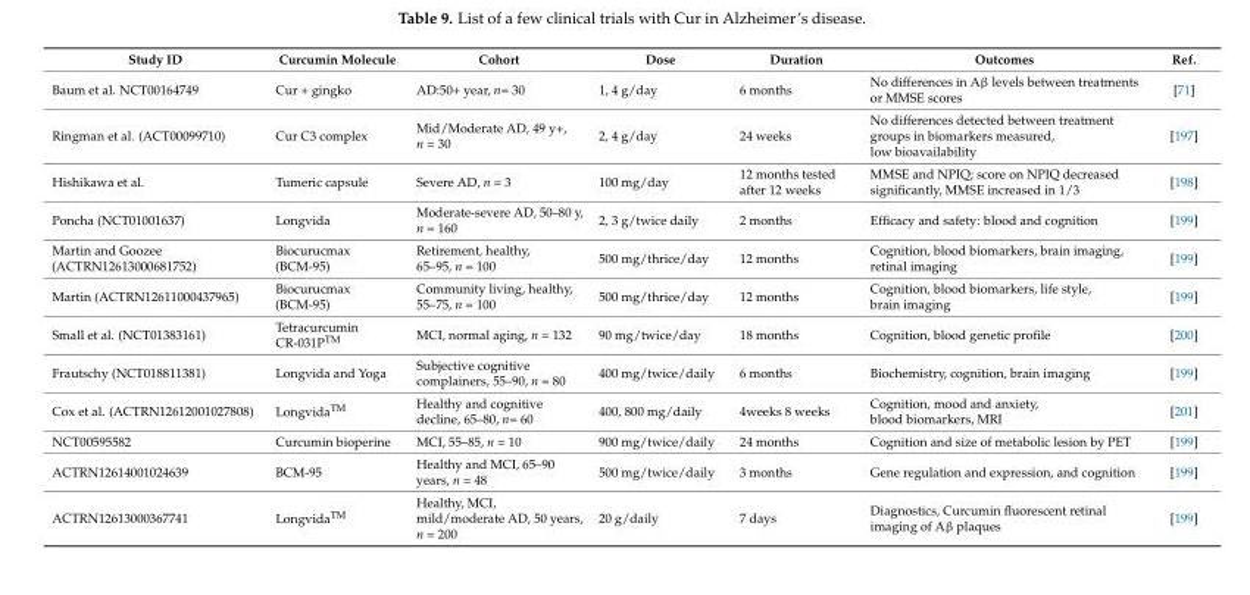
<table><thead><tr><td>Study ID</td><td>Curcumin Molecule</td><td>Cohort</td><td>Dose</td><td>Duration</td><td>Outcomes</td><td>Ref.</td></tr></thead><tbody><tr><td>Baum et al. NCT00164749</td><td>Cur + gingko</td><td>AD:50+ year, n= 30</td><td>1, 4 g/day</td><td>6 months</td><td>No differences in Aβ levels between treatments or MMSE scores</td><td>[71]</td></tr><tr><td>Ringman et al. (ACT00099710)</td><td>Cur C3 complex</td><td>Mid/Moderate AD, 49 y+, n = 30</td><td>2, 4 g/day</td><td>24 weeks</td><td>No differences detected between treatment groups in biomarkers measured, low bioavailability</td><td>[197]</td></tr><tr><td>Hishikawa et al.</td><td>Tumeric capsule</td><td>Severe AD, n = 3</td><td>100 mg/day</td><td>12 months tested after 12 weeks</td><td>MMSE and NPIQ; score on NPIQ decreased significantly, MMSE increased in 1/3</td><td>[198]</td></tr><tr><td>Poncha (NCT01001637)</td><td>Longvida</td><td>Moderate-severe AD, 50–80 y, n = 160</td><td>2, 3 g/twice daily</td><td>2 months</td><td>Efficacy and safety: blood and cognition</td><td>[199]</td></tr><tr><td>Martin and Goozee (ACTRN12613000681752)</td><td>Biocurucmax (BCM-95)</td><td>Retirement, healthy, 65–95, n = 100</td><td>500 mg/thrice/day</td><td>12 months</td><td>Cognition, blood biomarkers, brain imaging, retinal imaging</td><td>[199]</td></tr><tr><td>Martin (ACTRN12611000437965)</td><td>Biocurucmax (BCM-95)</td><td>Community living, healthy, 55–75, n = 100</td><td>500 mg/thrice/day</td><td>12 months</td><td>Cognition, blood biomarkers, life style, brain imaging</td><td>[199]</td></tr><tr><td>Small et al. (NCT01383161)</td><td>Tetracurcumin CR-031P<sup>TM</sup></td><td>MCI, normal aging, n = 132</td><td>90 mg/twice/day</td><td>18 months</td><td>Cognition, blood genetic profile</td><td>[200]</td></tr><tr><td>Frautschy (NCT018811381)</td><td>Longvida and Yoga</td><td>Subjective cognitive complainers, 55–90, n = 80</td><td>400 mg/twice/daily</td><td>6 months</td><td>Biochemistry, cognition, brain imaging</td><td>[199]</td></tr><tr><td>Cox et al. (ACTRN12612001027808)</td><td>Longvida<sup>TM</sup></td><td>Healthy and cognitive decline, 65–80, n= 60</td><td>400, 800 mg/daily</td><td>4weeks 8 weeks</td><td>Cognition, mood and anxiety, blood biomarkers, MRI</td><td>[201]</td></tr><tr><td>NCT00595582</td><td>Curcumin bioperine</td><td>MCI, 55–85, n = 10</td><td>900 mg/twice/daily</td><td>24 months</td><td>Cognition and size of metabolic lesion by PET</td><td>[199]</td></tr><tr><td>ACTRN12614001024639</td><td>BCM-95</td><td>Healthy and MCI, 65–90 years, n = 48</td><td>500 mg/twice/daily</td><td>3 months</td><td>Gene regulation and expression, and cognition</td><td>[199]</td></tr><tr><td>ACTRN12613000367741</td><td>Longvida<sup>TM</sup></td><td>Healthy, MCI, mild/moderate AD, 50 years, n = 200</td><td>20 g/daily</td><td>7 days</td><td>Diagnostics, Curcumin fluorescent retinal imaging of Aβ plaques</td><td>[199]</td></tr></tbody></table>